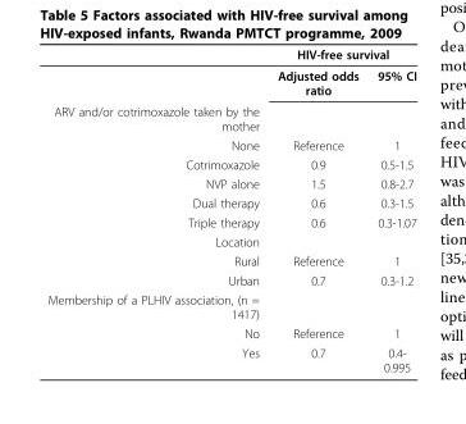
<table><thead><tr><td rowspan="2"></td><td colspan="2">HIV-free survival</td></tr><tr><td>Adjusted odds ratio</td><td>95% CI</td></tr></thead><tbody><tr><td colspan="3">ARV and/or cotrimoxazole taken by the mother</td></tr><tr><td>None</td><td>Reference</td><td>1</td></tr><tr><td>Cotrimoxazole</td><td>0.9</td><td>0.5-1.5</td></tr><tr><td>NVP alone</td><td>1.5</td><td>0.8-2.7</td></tr><tr><td>Dual therapy</td><td>0.6</td><td>0.3-1.5</td></tr><tr><td>Triple therapy</td><td>0.6</td><td>0.3-1.07</td></tr><tr><td colspan="3">Location</td></tr><tr><td>Rural</td><td>Reference</td><td>1</td></tr><tr><td>Urban</td><td>0.7</td><td>0.3-1.2</td></tr><tr><td colspan="3">Membership of a PLHIV association, (n = 1417)</td></tr><tr><td>No</td><td>Reference</td><td>1</td></tr><tr><td>Yes</td><td>0.7</td><td>0.4- 0.995</td></tr></tbody></table>